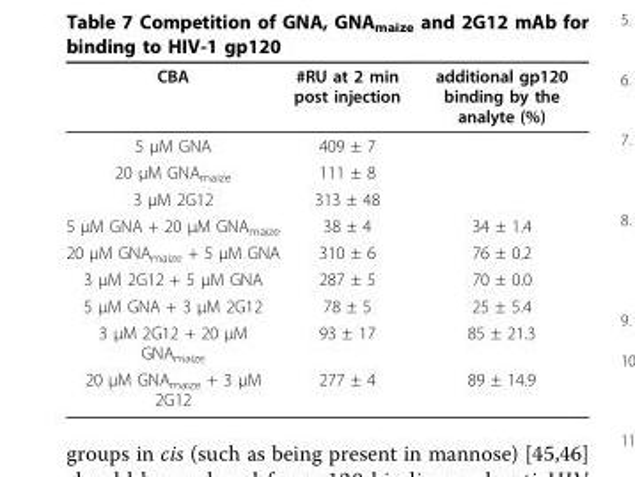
<table><thead><tr><td>CBA</td><td>#RU at 2 min post injection</td><td>additional gp120 binding by the analyte (%)</td></tr></thead><tbody><tr><td>5 μM GNA</td><td>409 ± 7</td><td></td></tr><tr><td>20 μM GNA<sub>maize</sub></td><td>111 ± 8</td><td></td></tr><tr><td>3 μM 2G12</td><td>313 ± 48</td><td></td></tr><tr><td>5 μM GNA + 20 μM GNA<sub>maize</sub></td><td>38 ± 4</td><td>34 ± 1.4</td></tr><tr><td>20 μM GNA<sub>maize</sub> + 5 μM GNA</td><td>310 ± 6</td><td>76 ± 0.2</td></tr><tr><td>3 μM 2G12 + 5 μM GNA</td><td>287 ± 5</td><td>70 ± 0.0</td></tr><tr><td>5 μM GNA + 3 μM 2G12</td><td>78 ± 5</td><td>25 ± 5.4</td></tr><tr><td>3 μM 2G12 + 20 μM GNA<sub>maize</sub></td><td>93 ± 17</td><td>85 ± 21.3</td></tr><tr><td>20 μM GNA<sub>maize</sub> + 3 μM 2G12</td><td>277 ± 4</td><td>89 ± 14.9</td></tr></tbody></table>